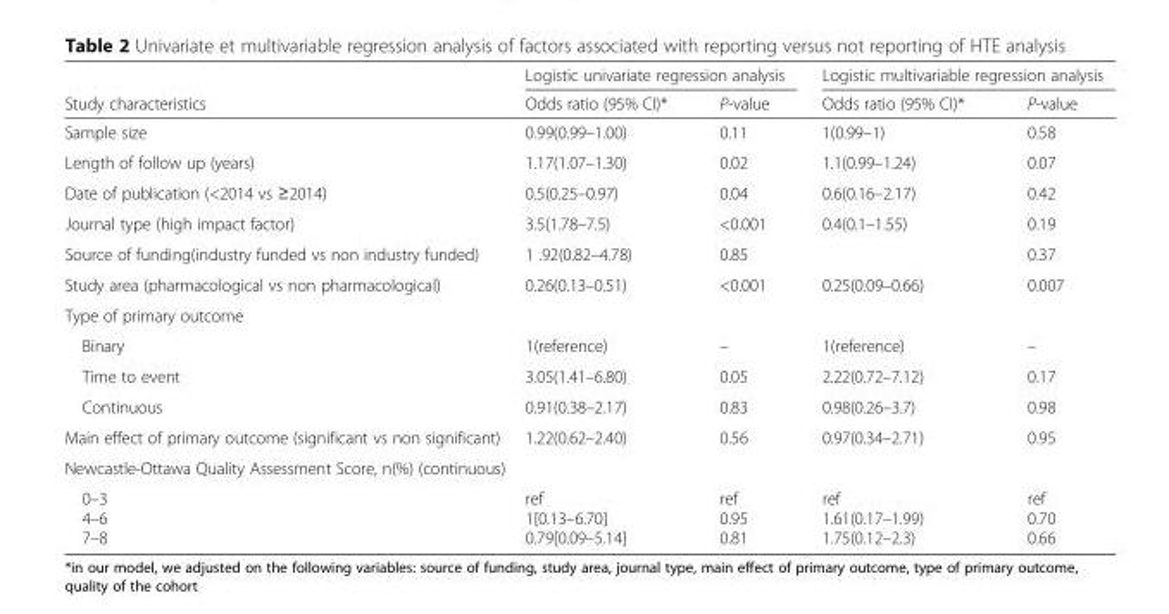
<table><thead><tr><td rowspan="2">Study characteristics</td><td colspan="2">Logistic univariate regression analysis</td><td colspan="2">Logistic multivariable regression analysis</td></tr><tr><td>Odds ratio (95% CI)*</td><td>P-value</td><td>Odds ratio (95% CI)*</td><td>P-value</td></tr></thead><tbody><tr><td>Sample size</td><td>0.99(0.99–1.00)</td><td>0.11</td><td>1(0.99–1)</td><td>0.58</td></tr><tr><td>Length of follow up (years)</td><td>1.17(1.07–1.30)</td><td>0.02</td><td>1.1(0.99–1.24)</td><td>0.07</td></tr><tr><td>Date of publication (&lt;2014 vs ≥2014)</td><td>0.5(0.25–0.97)</td><td>0.04</td><td>0.6(0.16–2.17)</td><td>0.42</td></tr><tr><td>Journal type (high impact factor)</td><td>3.5(1.78–7.5)</td><td>&lt;0.001</td><td>0.4(0.1–1.55)</td><td>0.19</td></tr><tr><td>Source of funding(industry funded vs non industry funded)</td><td>1 .92(0.82–4.78)</td><td>0.85</td><td></td><td>0.37</td></tr><tr><td>Study area (pharmacological vs non pharmacological)</td><td>0.26(0.13–0.51)</td><td>&lt;0.001</td><td>0.25(0.09–0.66)</td><td>0.007</td></tr><tr><td colspan="5">Type of primary outcome</td></tr><tr><td>Binary</td><td>1(reference)</td><td>–</td><td>1(reference)</td><td>–</td></tr><tr><td>Time to event</td><td>3.05(1.41–6.80)</td><td>0.05</td><td>2.22(0.72–7.12)</td><td>0.17</td></tr><tr><td>Continuous</td><td>0.91(0.38–2.17)</td><td>0.83</td><td>0.98(0.26–3.7)</td><td>0.98</td></tr><tr><td>Main effect of primary outcome (significant vs non significant)</td><td>1.22(0.62–2.40)</td><td>0.56</td><td>0.97(0.34–2.71)</td><td>0.95</td></tr><tr><td colspan="5">Newcastle-Ottawa Quality Assessment Score, n(%) (continuous)</td></tr><tr><td>0–3 4–6 7–8</td><td>ref 1[0.13–6.70] 0.79[0.09–5.14]</td><td>ref 0.95 0.81</td><td>ref 1.61(0.17–1.99) 1.75(0.12–2.3)</td><td>ref 0.70 0.66</td></tr></tbody></table>